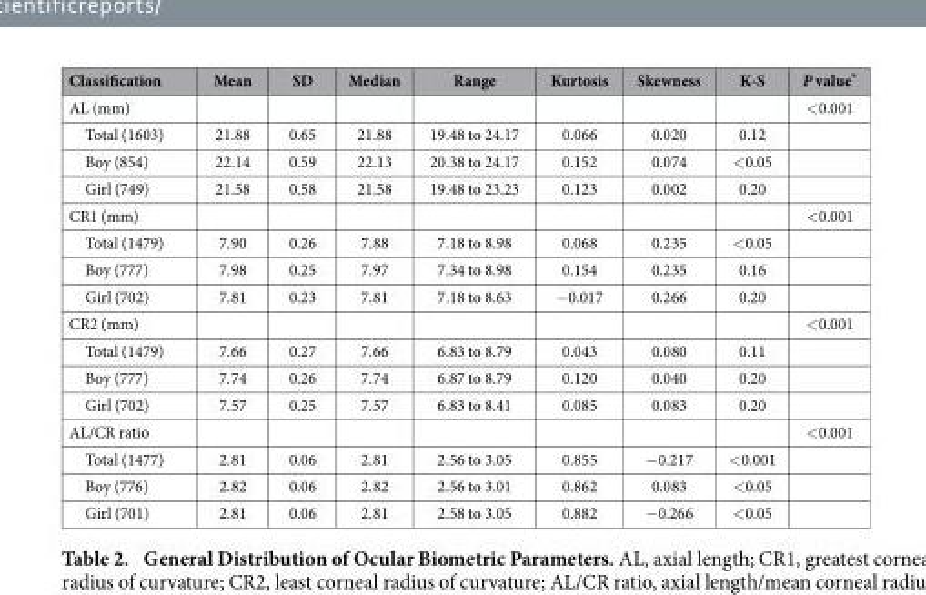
<table><thead><tr><td>Classification</td><td>Mean</td><td>SD</td><td>Median</td><td>Range</td><td>Kurtosis</td><td>Skewness</td><td>K-S</td><td>P value*</td></tr></thead><tbody><tr><td>AL (mm)</td><td></td><td></td><td></td><td></td><td></td><td></td><td></td><td>&lt; 0.001</td></tr><tr><td>Total (1603)</td><td>21.88</td><td>0.65</td><td>21.88</td><td>19.48 to 24.17</td><td>0.066</td><td>0.020</td><td>0.12</td><td></td></tr><tr><td>Boy (854)</td><td>22.14</td><td>0.59</td><td>22.13</td><td>20.38 to 24.17</td><td>0.152</td><td>0.074</td><td>&lt; 0.05</td><td></td></tr><tr><td>Girl (749)</td><td>21.58</td><td>0.58</td><td>21.58</td><td>19.48 to 23.23</td><td>0.123</td><td>0.002</td><td>0.20</td><td></td></tr><tr><td>CR1 (mm)</td><td></td><td></td><td></td><td></td><td></td><td></td><td></td><td>&lt; 0.001</td></tr><tr><td>Total (1479)</td><td>7.90</td><td>0.26</td><td>7.88</td><td>7.18 to 8.98</td><td>0.068</td><td>0.235</td><td>&lt; 0.05</td><td></td></tr><tr><td>Boy (777)</td><td>7.98</td><td>0.25</td><td>7.97</td><td>7.34 to 8.98</td><td>0.154</td><td>0.235</td><td>0.16</td><td></td></tr><tr><td>Girl (702)</td><td>7.81</td><td>0.23</td><td>7.81</td><td>7.18 to 8.63</td><td>− 0.017</td><td>0.266</td><td>0.20</td><td></td></tr><tr><td>CR2 (mm)</td><td></td><td></td><td></td><td></td><td></td><td></td><td></td><td>&lt; 0.001</td></tr><tr><td>Total (1479)</td><td>7.66</td><td>0.27</td><td>7.66</td><td>6.83 to 8.79</td><td>0.043</td><td>0.080</td><td>0.11</td><td></td></tr><tr><td>Boy (777)</td><td>7.74</td><td>0.26</td><td>7.74</td><td>6.87 to 8.79</td><td>0.120</td><td>0.040</td><td>0.20</td><td></td></tr><tr><td>Girl (702)</td><td>7.57</td><td>0.25</td><td>7.57</td><td>6.83 to 8.41</td><td>0.085</td><td>0.083</td><td>0.20</td><td></td></tr><tr><td>AL/CR ratio</td><td></td><td></td><td></td><td></td><td></td><td></td><td></td><td>&lt; 0.001</td></tr><tr><td>Total (1477)</td><td>2.81</td><td>0.06</td><td>2.81</td><td>2.56 to 3.05</td><td>0.855</td><td>− 0.217</td><td>&lt; 0.001</td><td></td></tr><tr><td>Boy (776)</td><td>2.82</td><td>0.06</td><td>2.82</td><td>2.56 to 3.01</td><td>0.862</td><td>0.083</td><td>&lt; 0.05</td><td></td></tr><tr><td>Girl (701)</td><td>2.81</td><td>0.06</td><td>2.81</td><td>2.58 to 3.05</td><td>0.882</td><td>− 0.266</td><td>&lt; 0.05</td><td></td></tr></tbody></table>